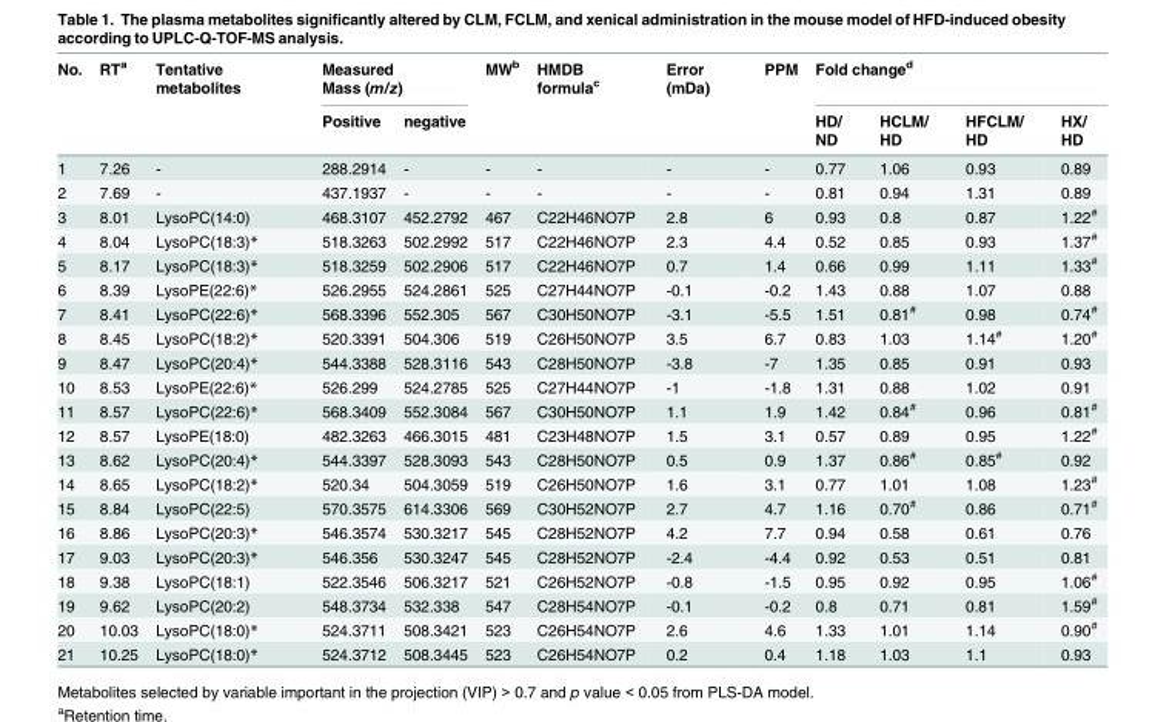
<table><thead><tr><td rowspan="2">No.</td><td rowspan="2">RT<sup>a</sup></td><td rowspan="2">Tentative metabolites</td><td colspan="2">Measured Mass (m/z)</td><td rowspan="2">MW<sup>b</sup></td><td rowspan="2">HMDB formula<sup>c</sup></td><td rowspan="2">Error (mDa)</td><td rowspan="2">PPM</td><td colspan="4">Fold change<sup>d</sup></td></tr><tr><td>Positive</td><td>negative</td><td>HD/ ND</td><td>HCLM/ HD</td><td>HFCLM/ HD</td><td>HX/ HD</td></tr></thead><tbody><tr><td>1</td><td>7.26</td><td>-</td><td>288.2914</td><td>-</td><td>-</td><td>-</td><td>-</td><td>-</td><td>0.77</td><td>1.06</td><td>0.93</td><td>0.89</td></tr><tr><td>2</td><td>7.69</td><td>-</td><td>437.1937</td><td>-</td><td>-</td><td>-</td><td>-</td><td>-</td><td>0.81</td><td>0.94</td><td>1.31</td><td>0.89</td></tr><tr><td>3</td><td>8.01</td><td>LysoPC(14:0)</td><td>468.3107</td><td>452.2792</td><td>467</td><td>C22H46NO7P</td><td>2.8</td><td>6</td><td>0.93</td><td>0.8</td><td>0.87</td><td>1.22<sup>#</sup></td></tr><tr><td>4</td><td>8.04</td><td>LysoPC(18:3)*</td><td>518.3263</td><td>502.2992</td><td>517</td><td>C22H46NO7P</td><td>2.3</td><td>4.4</td><td>0.52</td><td>0.85</td><td>0.93</td><td>1.37<sup>#</sup></td></tr><tr><td>5</td><td>8.17</td><td>LysoPC(18:3)*</td><td>518.3259</td><td>502.2906</td><td>517</td><td>C22H46NO7P</td><td>0.7</td><td>1.4</td><td>0.66</td><td>0.99</td><td>1.11</td><td>1.33<sup>#</sup></td></tr><tr><td>6</td><td>8.39</td><td>LysoPE(22:6)*</td><td>526.2955</td><td>524.2861</td><td>525</td><td>C27H44NO7P</td><td>-0.1</td><td>-0.2</td><td>1.43</td><td>0.88</td><td>1.07</td><td>0.88</td></tr><tr><td>7</td><td>8.41</td><td>LysoPC(22:6)*</td><td>568.3396</td><td>552.305</td><td>567</td><td>C30H50NO7P</td><td>-3.1</td><td>-5.5</td><td>1.51</td><td>0.81<sup>#</sup></td><td>0.98</td><td>0.74<sup>#</sup></td></tr><tr><td>8</td><td>8.45</td><td>LysoPC(18:2)*</td><td>520.3391</td><td>504.306</td><td>519</td><td>C26H50NO7P</td><td>3.5</td><td>6.7</td><td>0.83</td><td>1.03</td><td>1.14<sup>#</sup></td><td>1.20<sup>#</sup></td></tr><tr><td>9</td><td>8.47</td><td>LysoPC(20:4)*</td><td>544.3388</td><td>528.3116</td><td>543</td><td>C28H50NO7P</td><td>-3.8</td><td>-7</td><td>1.35</td><td>0.85</td><td>0.91</td><td>0.93</td></tr><tr><td>10</td><td>8.53</td><td>LysoPE(22:6)*</td><td>526.299</td><td>524.2785</td><td>525</td><td>C27H44NO7P</td><td>-1</td><td>-1.8</td><td>1.31</td><td>0.88</td><td>1.02</td><td>0.91</td></tr><tr><td>11</td><td>8.57</td><td>LysoPC(22:6)*</td><td>568.3409</td><td>552.3084</td><td>567</td><td>C30H50NO7P</td><td>1.1</td><td>1.9</td><td>1.42</td><td>0.84<sup>#</sup></td><td>0.96</td><td>0.81<sup>#</sup></td></tr><tr><td>12</td><td>8.57</td><td>LysoPE(18:0)</td><td>482.3263</td><td>466.3015</td><td>481</td><td>C23H48NO7P</td><td>1.5</td><td>3.1</td><td>0.57</td><td>0.89</td><td>0.95</td><td>1.22<sup>#</sup></td></tr><tr><td>13</td><td>8.62</td><td>LysoPC(20:4)*</td><td>544.3397</td><td>528.3093</td><td>543</td><td>C28H50NO7P</td><td>0.5</td><td>0.9</td><td>1.37</td><td>0.86<sup>#</sup></td><td>0.85<sup>#</sup></td><td>0.92</td></tr><tr><td>14</td><td>8.65</td><td>LysoPC(18:2)*</td><td>520.34</td><td>504.3059</td><td>519</td><td>C26H50NO7P</td><td>1.6</td><td>3.1</td><td>0.77</td><td>1.01</td><td>1.08</td><td>1.23<sup>#</sup></td></tr><tr><td>15</td><td>8.84</td><td>LysoPC(22:5)</td><td>570.3575</td><td>614.3306</td><td>569</td><td>C30H52NO7P</td><td>2.7</td><td>4.7</td><td>1.16</td><td>0.70<sup>#</sup></td><td>0.86</td><td>0.71<sup>#</sup></td></tr><tr><td>16</td><td>8.86</td><td>LysoPC(20:3)*</td><td>546.3574</td><td>530.3217</td><td>545</td><td>C28H52NO7P</td><td>4.2</td><td>7.7</td><td>0.94</td><td>0.58</td><td>0.61</td><td>0.76</td></tr><tr><td>17</td><td>9.03</td><td>LysoPC(20:3)*</td><td>546.356</td><td>530.3247</td><td>545</td><td>C28H52NO7P</td><td>-2.4</td><td>-4.4</td><td>0.92</td><td>0.53</td><td>0.51</td><td>0.81</td></tr><tr><td>18</td><td>9.38</td><td>LysoPC(18:1)</td><td>522.3546</td><td>506.3217</td><td>521</td><td>C26H52NO7P</td><td>-0.8</td><td>-1.5</td><td>0.95</td><td>0.92</td><td>0.95</td><td>1.06<sup>#</sup></td></tr><tr><td>19</td><td>9.62</td><td>LysoPC(20:2)</td><td>548.3734</td><td>532.338</td><td>547</td><td>C28H54NO7P</td><td>-0.1</td><td>-0.2</td><td>0.8</td><td>0.71</td><td>0.81</td><td>1.59<sup>#</sup></td></tr><tr><td>20</td><td>10.03</td><td>LysoPC(18:0)*</td><td>524.3711</td><td>508.3421</td><td>523</td><td>C26H54NO7P</td><td>2.6</td><td>4.6</td><td>1.33</td><td>1.01</td><td>1.14</td><td>0.90<sup>#</sup></td></tr><tr><td>21</td><td>10.25</td><td>LysoPC(18:0)*</td><td>524.3712</td><td>508.3445</td><td>523</td><td>C26H54NO7P</td><td>0.2</td><td>0.4</td><td>1.18</td><td>1.03</td><td>1.1</td><td>0.93</td></tr></tbody></table>